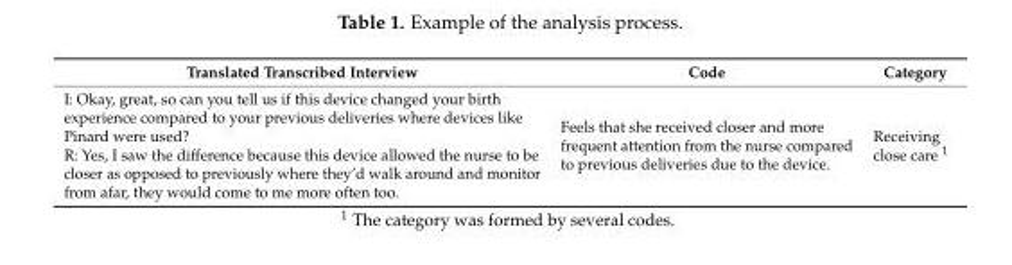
<table><thead><tr><td>Translated Transcribed Interview</td><td>Code</td><td>Category</td></tr></thead><tbody><tr><td>I: Okay, great, so can you tell us if this device changed your birth experience compared to your previous deliveries where devices like Pinard were used? R: Yes, I saw the difference because this device allowed the nurse to be closer as opposed to previously where they’d walk around and monitor from afar, they would come to me more often too.</td><td>Feels that she received closer and more frequent attention from the nurse compared to previous deliveries due to the device.</td><td>Receiving close care <sup>1</sup></td></tr></tbody></table>